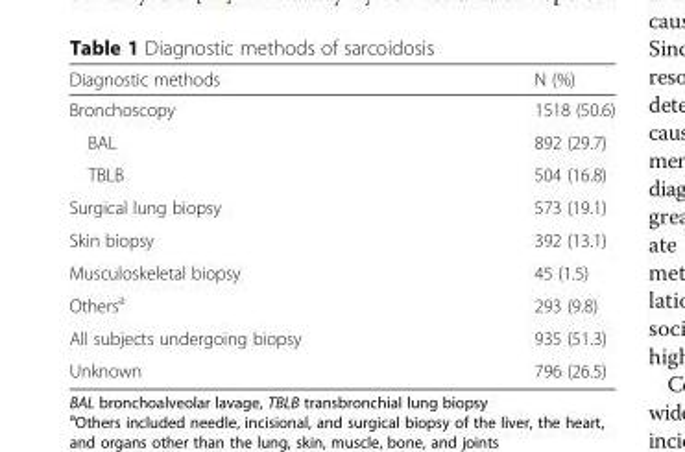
<table><thead><tr><td>Diagnostic methods</td><td>N (%)</td></tr></thead><tbody><tr><td>Bronchoscopy</td><td>1518 (50.6)</td></tr><tr><td>BAL</td><td>892 (29.7)</td></tr><tr><td>TBLB</td><td>504 (16.8)</td></tr><tr><td>Surgical lung biopsy</td><td>573 (19.1)</td></tr><tr><td>Skin biopsy</td><td>392 (13.1)</td></tr><tr><td>Musculoskeletal biopsy</td><td>45 (1.5)</td></tr><tr><td>Others<sup>a</sup></td><td>293 (9.8)</td></tr><tr><td>All subjects undergoing biopsy</td><td>935 (51.3)</td></tr><tr><td>Unknown</td><td>796 (26.5)</td></tr></tbody></table>